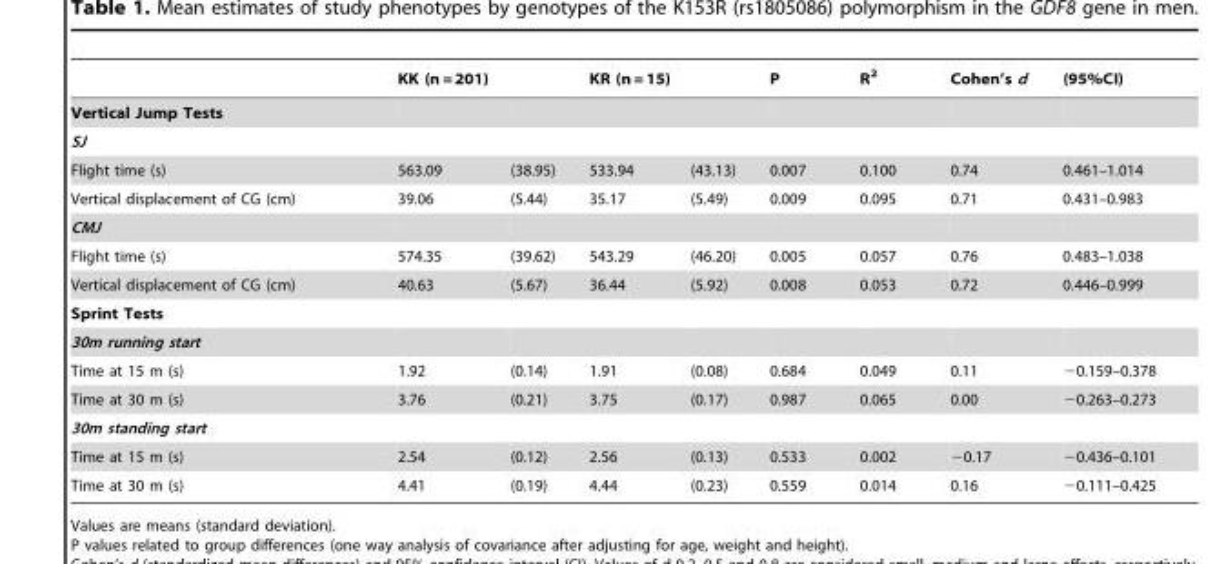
<table><thead><tr><td rowspan="2">Vertical Jump Tests</td><td colspan="2">KK (n = 201)</td><td colspan="2">KR (n = 15)</td><td rowspan="2">P</td><td rowspan="2">R<sup>2</sup></td><td rowspan="2">Cohen’s d</td><td rowspan="2">(95%CI)</td></tr><tr><td></td><td></td><td></td><td></td></tr></thead><tbody><tr><td colspan="9">SJ</td></tr><tr><td>Flight time (s)</td><td>563.09</td><td>(38.95)</td><td>533.94</td><td>(43.13)</td><td>0.007</td><td>0.100</td><td>0.74</td><td>0.461–1.014</td></tr><tr><td>Vertical displacement of CG (cm)</td><td>39.06</td><td>(5.44)</td><td>35.17</td><td>(5.49)</td><td>0.009</td><td>0.095</td><td>0.71</td><td>0.431–0.983</td></tr><tr><td colspan="9">CMJ</td></tr><tr><td>Flight time (s)</td><td>574.35</td><td>(39.62)</td><td>543.29</td><td>(46.20)</td><td>0.005</td><td>0.057</td><td>0.76</td><td>0.483–1.038</td></tr><tr><td>Vertical displacement of CG (cm)</td><td>40.63</td><td>(5.67)</td><td>36.44</td><td>(5.92)</td><td>0.008</td><td>0.053</td><td>0.72</td><td>0.446–0.999</td></tr><tr><td colspan="9">Sprint Tests</td></tr><tr><td colspan="9">30m running start</td></tr><tr><td>Time at 15 m (s)</td><td>1.92</td><td>(0.14)</td><td>1.91</td><td>(0.08)</td><td>0.684</td><td>0.049</td><td>0.11</td><td>−0.159–0.378</td></tr><tr><td>Time at 30 m (s)</td><td>3.76</td><td>(0.21)</td><td>3.75</td><td>(0.17)</td><td>0.987</td><td>0.065</td><td>0.00</td><td>−0.263–0.273</td></tr><tr><td colspan="9">30m standing start</td></tr><tr><td>Time at 15 m (s)</td><td>2.54</td><td>(0.12)</td><td>2.56</td><td>(0.13)</td><td>0.533</td><td>0.002</td><td>−0.17</td><td>−0.436–0.101</td></tr><tr><td>Time at 30 m (s)</td><td>4.41</td><td>(0.19)</td><td>4.44</td><td>(0.23)</td><td>0.559</td><td>0.014</td><td>0.16</td><td>−0.111–0.425</td></tr></tbody></table>